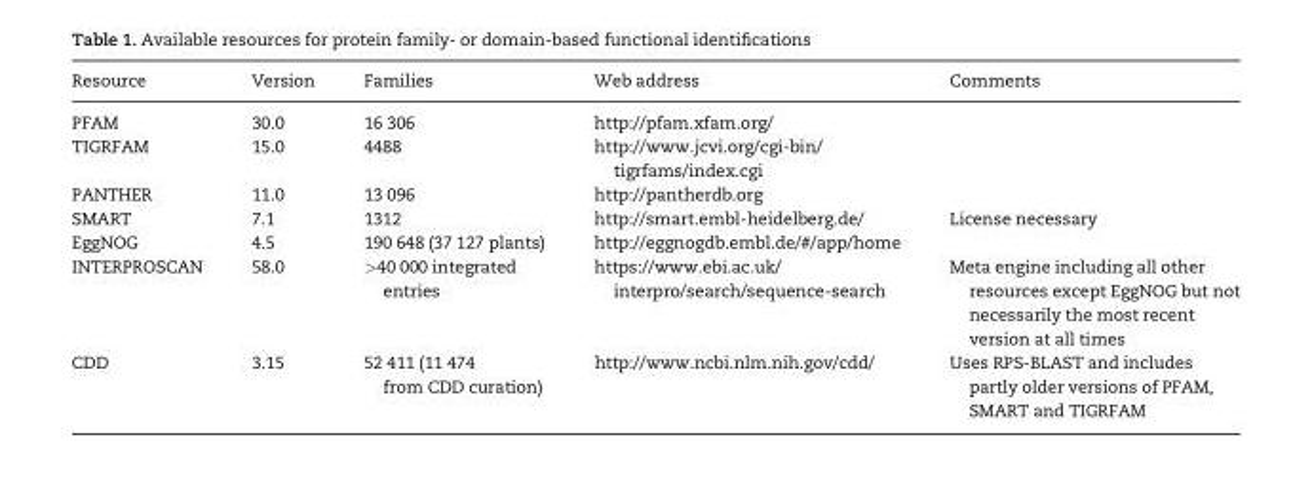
<table><thead><tr><td>Resource</td><td>Version</td><td>Families</td><td>Web address</td><td>Comments</td></tr></thead><tbody><tr><td>PFAM</td><td>30.0</td><td>16 306</td><td>http://pfam.xfam.org/</td><td></td></tr><tr><td>TIGRFAM</td><td>15.0</td><td>4488</td><td>http://www.jcvi.org/cgi-bin/ tigrfams/index.cgi</td><td></td></tr><tr><td>PANTHER</td><td>11.0</td><td>13 096</td><td>http://pantherdb.org</td><td></td></tr><tr><td>SMART</td><td>7.1</td><td>1312</td><td>http://smart.embl-heidelberg.de/</td><td>License necessary</td></tr><tr><td>EggNOG</td><td>4.5</td><td>190 648 (37 127 plants)</td><td>http://eggnogdb.embl.de/#/app/home</td><td></td></tr><tr><td>INTERPROSCAN</td><td>58.0</td><td>&gt;40 000 integrated entries</td><td>https://www.ebi.ac.uk/ interpro/search/sequence-search</td><td>Meta engine including all other resources except EggNOG but not necessarily the most recent version at all times</td></tr><tr><td>CDD</td><td>3.15</td><td>52 411 (11 474 from CDD curation)</td><td>http://www.ncbi.nlm.nih.gov/cdd/</td><td>Uses RPS-BLAST and includes partly older versions of PFAM, SMART and TIGRFAM</td></tr></tbody></table>